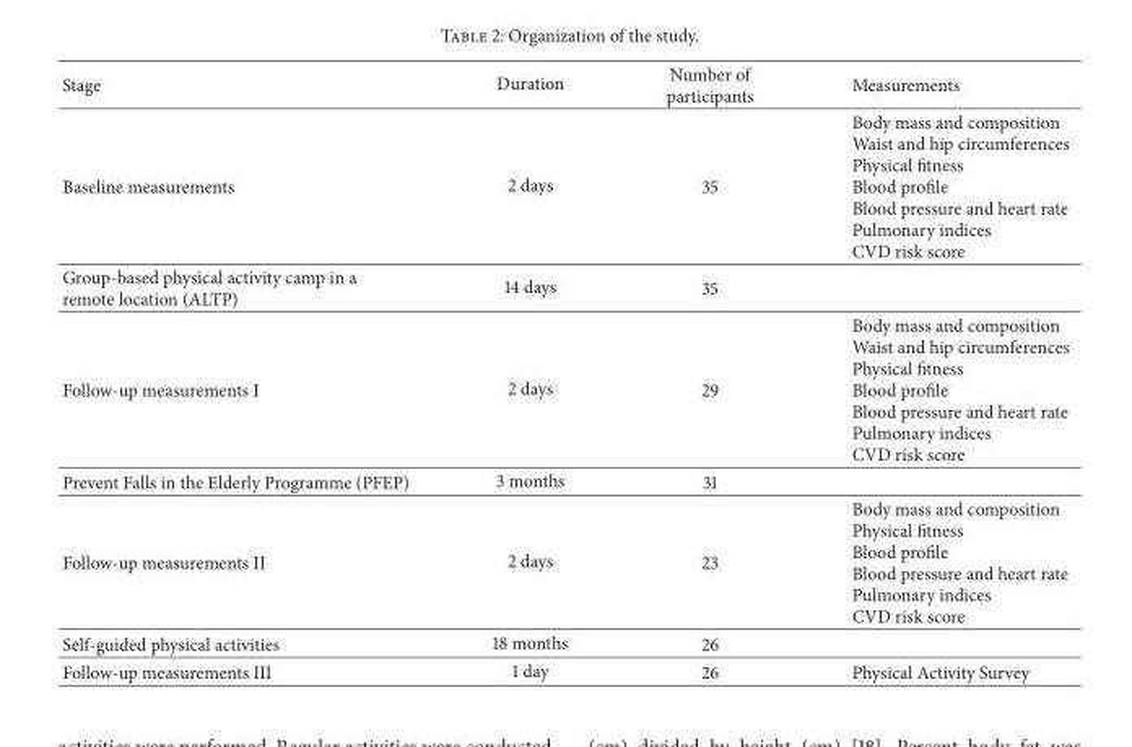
<table><thead><tr><td>Stage</td><td>Duration</td><td>Number of participants</td><td>Measurements</td></tr></thead><tbody><tr><td>Baseline measurements</td><td>2 days</td><td>35</td><td>Body mass and composition Waist and hip circumferences Physical fitness Blood profile Blood pressure and heart rate Pulmonary indices CVD risk score</td></tr><tr><td>Group-based physical activity camp in a remote location (ALTP)</td><td>14 days</td><td>35</td><td></td></tr><tr><td>Follow-up measurements I</td><td>2 days</td><td>29</td><td>Body mass and composition Waist and hip circumferences Physical fitness Blood profile Blood pressure and heart rate Pulmonary indices CVD risk score</td></tr><tr><td>Prevent Falls in the Elderly Programme (PFEP)</td><td>3 months</td><td>31</td><td></td></tr><tr><td>Follow-up measurements II</td><td>2 days</td><td>23</td><td>Body mass and composition Physical fitness Blood profile Blood pressure and heart rate Pulmonary indices CVD risk score</td></tr><tr><td>Self-guided physical activities</td><td>18 months</td><td>26</td><td></td></tr><tr><td>Follow-up measurements III</td><td>1 day</td><td>26</td><td>Physical Activity Survey</td></tr></tbody></table>